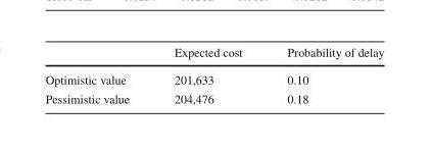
<table><thead><tr><td></td><td>Expected cost</td><td>Probability of delay</td></tr></thead><tbody><tr><td>Optimistic value</td><td>201,633</td><td>0.10</td></tr><tr><td>Pessimistic value</td><td>204,476</td><td>0.18</td></tr></tbody></table>